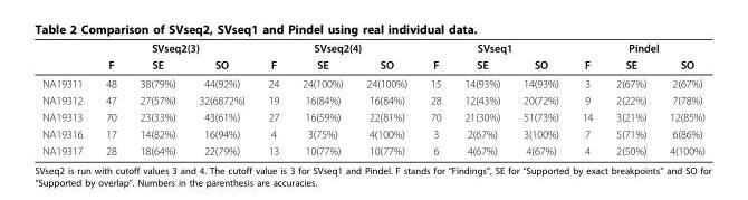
<table><thead><tr><td rowspan="2"></td><td colspan="3">SVseq2(3)</td><td colspan="3">SVseq2(4)</td><td colspan="3">SVseq1</td><td colspan="3">Pindel</td></tr><tr><td>F</td><td>SE</td><td>SO</td><td>F</td><td>SE</td><td>SO</td><td>F</td><td>SE</td><td>SO</td><td>F</td><td>SE</td><td>SO</td></tr></thead><tbody><tr><td>NA19311</td><td>48</td><td>38(79%)</td><td>44(92%)</td><td>24</td><td>24(100%)</td><td>24(100%)</td><td>15</td><td>14(93%)</td><td>14(93%)</td><td>3</td><td>2(67%)</td><td>2(67%)</td></tr><tr><td>NA19312</td><td>47</td><td>27(57%)</td><td>32(6872%)</td><td>19</td><td>16(84%)</td><td>16(84%)</td><td>28</td><td>12(43%)</td><td>20(72%)</td><td>9</td><td>2(22%)</td><td>7(78%)</td></tr><tr><td>NA19313</td><td>70</td><td>23(33%)</td><td>43(61%)</td><td>27</td><td>16(59%)</td><td>22(81%)</td><td>70</td><td>21(30%)</td><td>51(73%)</td><td>14</td><td>3(21%)</td><td>12(85%)</td></tr><tr><td>NA19316</td><td>17</td><td>14(82%)</td><td>16(94%)</td><td>4</td><td>3(75%)</td><td>4(100%)</td><td>3</td><td>2(67%)</td><td>3(100%)</td><td>7</td><td>5(71%)</td><td>6(86%)</td></tr><tr><td>NA19317</td><td>28</td><td>18(64%)</td><td>22(79%)</td><td>13</td><td>10(77%)</td><td>10(77%)</td><td>6</td><td>4(67%)</td><td>4(67%)</td><td>4</td><td>2(50%)</td><td>4(100%)</td></tr></tbody></table>